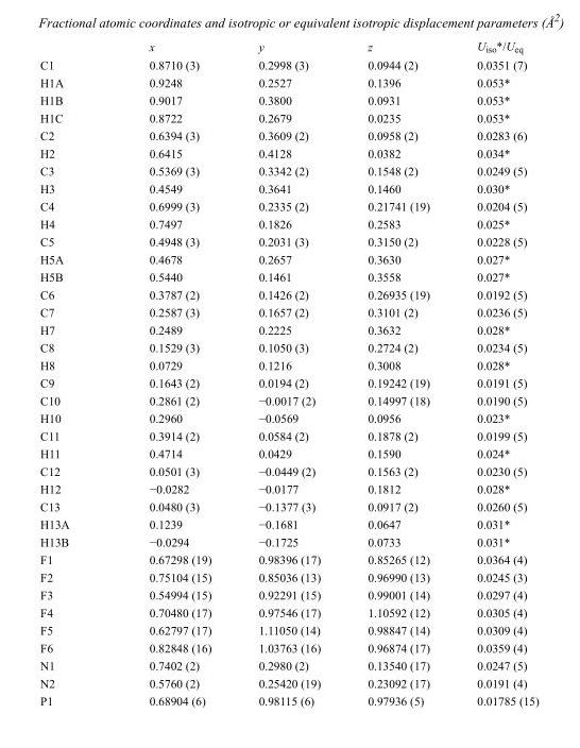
<table><thead><tr><td></td><td>x</td><td>y</td><td>z</td><td>U<sub>iso</sub>*/U<sub>eq</sub></td></tr></thead><tbody><tr><td>C1</td><td>0.8710 (3)</td><td>0.2998 (3)</td><td>0.0944 (2)</td><td>0.0351 (7)</td></tr><tr><td>H1A</td><td>0.9248</td><td>0.2527</td><td>0.1396</td><td>0.053*</td></tr><tr><td>H1B</td><td>0.9017</td><td>0.3800</td><td>0.0931</td><td>0.053*</td></tr><tr><td>H1C</td><td>0.8722</td><td>0.2679</td><td>0.0235</td><td>0.053*</td></tr><tr><td>C2</td><td>0.6394 (3)</td><td>0.3609 (2)</td><td>0.0958 (2)</td><td>0.0283 (6)</td></tr><tr><td>H2</td><td>0.6415</td><td>0.4128</td><td>0.0382</td><td>0.034*</td></tr><tr><td>C3</td><td>0.5369 (3)</td><td>0.3342 (2)</td><td>0.1548 (2)</td><td>0.0249 (5)</td></tr><tr><td>H3</td><td>0.4549</td><td>0.3641</td><td>0.1460</td><td>0.030*</td></tr><tr><td>C4</td><td>0.6999 (3)</td><td>0.2335 (2)</td><td>0.21741 (19)</td><td>0.0204 (5)</td></tr><tr><td>H4</td><td>0.7497</td><td>0.1826</td><td>0.2583</td><td>0.025*</td></tr><tr><td>C5</td><td>0.4948 (3)</td><td>0.2031 (3)</td><td>0.3150 (2)</td><td>0.0228 (5)</td></tr><tr><td>H5A</td><td>0.4678</td><td>0.2657</td><td>0.3630</td><td>0.027*</td></tr><tr><td>H5B</td><td>0.5440</td><td>0.1461</td><td>0.3558</td><td>0.027*</td></tr><tr><td>C6</td><td>0.3787 (2)</td><td>0.1426 (2)</td><td>0.26935 (19)</td><td>0.0192 (5)</td></tr><tr><td>C7</td><td>0.2587 (3)</td><td>0.1657 (2)</td><td>0.3101 (2)</td><td>0.0236 (5)</td></tr><tr><td>H7</td><td>0.2489</td><td>0.2225</td><td>0.3632</td><td>0.028*</td></tr><tr><td>C8</td><td>0.1529 (3)</td><td>0.1050 (3)</td><td>0.2724 (2)</td><td>0.0234 (5)</td></tr><tr><td>H8</td><td>0.0729</td><td>0.1216</td><td>0.3008</td><td>0.028*</td></tr><tr><td>C9</td><td>0.1643 (2)</td><td>0.0194 (2)</td><td>0.19242 (19)</td><td>0.0191 (5)</td></tr><tr><td>C10</td><td>0.2861 (2)</td><td>−0.0017 (2)</td><td>0.14997 (18)</td><td>0.0190 (5)</td></tr><tr><td>H10</td><td>0.2960</td><td>−0.0569</td><td>0.0956</td><td>0.023*</td></tr><tr><td>C11</td><td>0.3914 (2)</td><td>0.0584 (2)</td><td>0.1878 (2)</td><td>0.0199 (5)</td></tr><tr><td>H11</td><td>0.4714</td><td>0.0429</td><td>0.1590</td><td>0.024*</td></tr><tr><td>C12</td><td>0.0501 (3)</td><td>−0.0449 (2)</td><td>0.1563 (2)</td><td>0.0230 (5)</td></tr><tr><td>H12</td><td>−0.0282</td><td>−0.0177</td><td>0.1812</td><td>0.028*</td></tr><tr><td>C13</td><td>0.0480 (3)</td><td>−0.1377 (3)</td><td>0.0917 (2)</td><td>0.0260 (5)</td></tr><tr><td>H13A</td><td>0.1239</td><td>−0.1681</td><td>0.0647</td><td>0.031*</td></tr><tr><td>H13B</td><td>−0.0294</td><td>−0.1725</td><td>0.0733</td><td>0.031*</td></tr><tr><td>F1</td><td>0.67298 (19)</td><td>0.98396 (17)</td><td>0.85265 (12)</td><td>0.0364 (4)</td></tr><tr><td>F2</td><td>0.75104 (15)</td><td>0.85036 (13)</td><td>0.96990 (13)</td><td>0.0245 (3)</td></tr><tr><td>F3</td><td>0.54994 (15)</td><td>0.92291 (15)</td><td>0.99001 (14)</td><td>0.0297 (4)</td></tr><tr><td>F4</td><td>0.70480 (17)</td><td>0.97546 (17)</td><td>1.10592 (12)</td><td>0.0305 (4)</td></tr><tr><td>F5</td><td>0.62797 (17)</td><td>1.11050 (14)</td><td>0.98847 (14)</td><td>0.0309 (4)</td></tr><tr><td>F6</td><td>0.82848 (16)</td><td>1.03763 (16)</td><td>0.96874 (17)</td><td>0.0359 (4)</td></tr><tr><td>N1</td><td>0.7402 (2)</td><td>0.2980 (2)</td><td>0.13540 (17)</td><td>0.0247 (5)</td></tr><tr><td>N2</td><td>0.5760 (2)</td><td>0.25420 (19)</td><td>0.23092 (17)</td><td>0.0191 (4)</td></tr><tr><td>P1</td><td>0.68904 (6)</td><td>0.98115 (6)</td><td>0.97936 (5)</td><td>0.01785 (15)</td></tr></tbody></table>